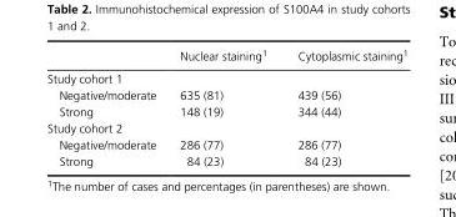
<table><thead><tr><td></td><td>Nuclear staining1</td><td>Cytoplasmic staining1</td></tr></thead><tbody><tr><td colspan="3">Study cohort 1</td></tr><tr><td>Negative/moderate</td><td>635 (81)</td><td>439 (56)</td></tr><tr><td>Strong</td><td>148 (19)</td><td>344 (44)</td></tr><tr><td colspan="3">Study cohort 2</td></tr><tr><td>Negative/moderate</td><td>286 (77)</td><td>286 (77)</td></tr><tr><td>Strong</td><td>84 (23)</td><td>84 (23)</td></tr></tbody></table>